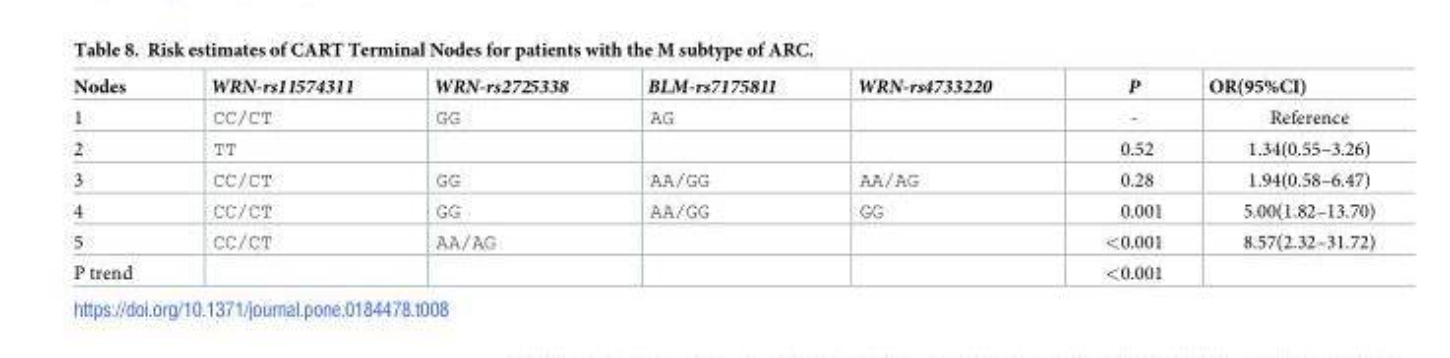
<table><thead><tr><td>Nodes</td><td>WRN-rs11574311</td><td>WRN-rs2725338</td><td>BLM-rs7175811</td><td>WRN-rs4733220</td><td>P</td><td>OR(95%CI)</td></tr></thead><tbody><tr><td>1</td><td>CC/CT</td><td>GG</td><td>AG</td><td></td><td>-</td><td>Reference</td></tr><tr><td>2</td><td>TT</td><td></td><td></td><td></td><td>0.52</td><td>1.34(0.55–3.26)</td></tr><tr><td>3</td><td>CC/CT</td><td>GG</td><td>AA/GG</td><td>AA/AG</td><td>0.28</td><td>1.94(0.58–6.47)</td></tr><tr><td>4</td><td>CC/CT</td><td>GG</td><td>AA/GG</td><td>GG</td><td>0.001</td><td>5.00(1.82–13.70)</td></tr><tr><td>5</td><td>CC/CT</td><td>AA/AG</td><td></td><td></td><td>&lt;0.001</td><td>8.57(2.32–31.72)</td></tr><tr><td>P trend</td><td></td><td></td><td></td><td></td><td>&lt;0.001</td><td></td></tr></tbody></table>